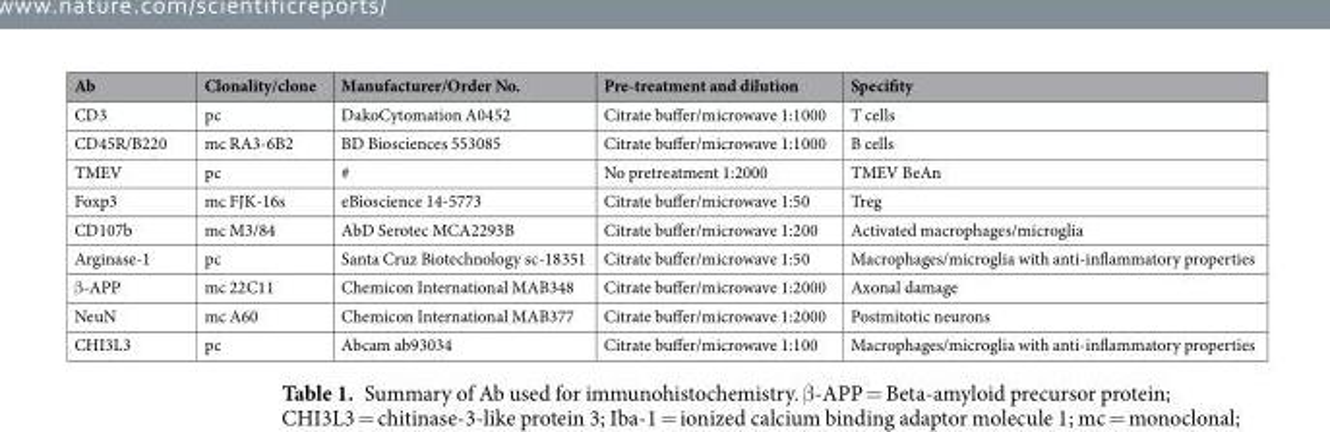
<table><thead><tr><td>Ab</td><td>Clonality/clone</td><td>Manufacturer/Order No.</td><td>Pre-treatment and dilution</td><td>Specifity</td></tr></thead><tbody><tr><td>CD3</td><td>pc</td><td>DakoCytomation A0452</td><td>Citrate buffer/microwave 1:1000</td><td>T cells</td></tr><tr><td>CD45R/B220</td><td>mc RA3-6B2</td><td>BD Biosciences 553085</td><td>Citrate buffer/microwave 1:1000</td><td>B cells</td></tr><tr><td>TMEV</td><td>pc</td><td>#</td><td>No pretreatment 1:2000</td><td>TMEV BeAn</td></tr><tr><td>Foxp3</td><td>mc FJK-16s</td><td>eBioscience 14-5773</td><td>Citrate buffer/microwave 1:50</td><td>Treg</td></tr><tr><td>CD107b</td><td>mc M3/84</td><td>AbD Serotec MCA2293B</td><td>Citrate buffer/microwave 1:200</td><td>Activated macrophages/microglia</td></tr><tr><td>Arginase-1</td><td>pc</td><td>Santa Cruz Biotechnology sc-18351</td><td>Citrate buffer/microwave 1:50</td><td>Macrophages/microglia with anti-inflammatory properties</td></tr><tr><td>β-APP</td><td>mc 22C11</td><td>Chemicon International MAB348</td><td>Citrate buffer/microwave 1:2000</td><td>Axonal damage</td></tr><tr><td>NeuN</td><td>mc A60</td><td>Chemicon International MAB377</td><td>Citrate buffer/microwave 1:2000</td><td>Postmitotic neurons</td></tr><tr><td>CHI3L3</td><td>pc</td><td>Abcam ab93034</td><td>Citrate buffer/microwave 1:100</td><td>Macrophages/microglia with anti-inflammatory properties</td></tr></tbody></table>